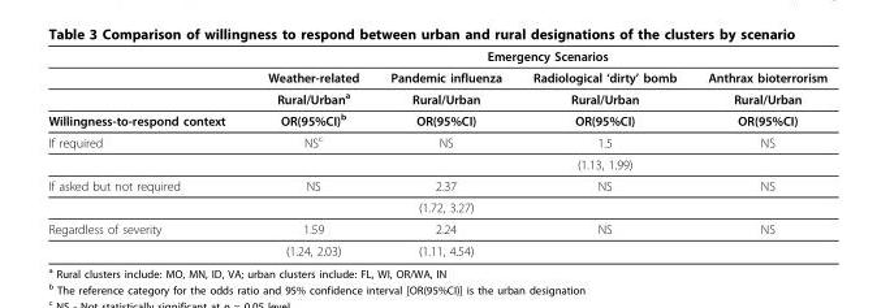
<table><thead><tr><td rowspan="2"></td><td colspan="4">Emergency Scenarios</td></tr><tr><td>Weather-related</td><td>Pandemic influenza</td><td>Radiological ‘dirty’ bomb</td><td>Anthrax bioterrorism</td></tr></thead><tbody><tr><td></td><td>Rural/Urban<sup>a</sup></td><td>Rural/Urban</td><td>Rural/Urban</td><td>Rural/Urban</td></tr><tr><td>Willingness-to-respond context</td><td>OR(95%CI)<sup>b</sup></td><td>OR(95%CI)</td><td>OR(95%CI)</td><td>OR(95%CI)</td></tr><tr><td rowspan="2">If required</td><td>NS<sup>c</sup></td><td>NS</td><td>1.5</td><td>NS</td></tr><tr><td></td><td></td><td>(1.13, 1.99)</td><td></td></tr><tr><td rowspan="2">If asked but not required</td><td>NS</td><td>2.37</td><td>NS</td><td>NS</td></tr><tr><td></td><td>(1.72, 3.27)</td><td></td><td></td></tr><tr><td rowspan="2">Regardless of severity</td><td>1.59</td><td>2.24</td><td>NS</td><td>NS</td></tr><tr><td>(1.24, 2.03)</td><td>(1.11, 4.54)</td><td></td><td></td></tr></tbody></table>